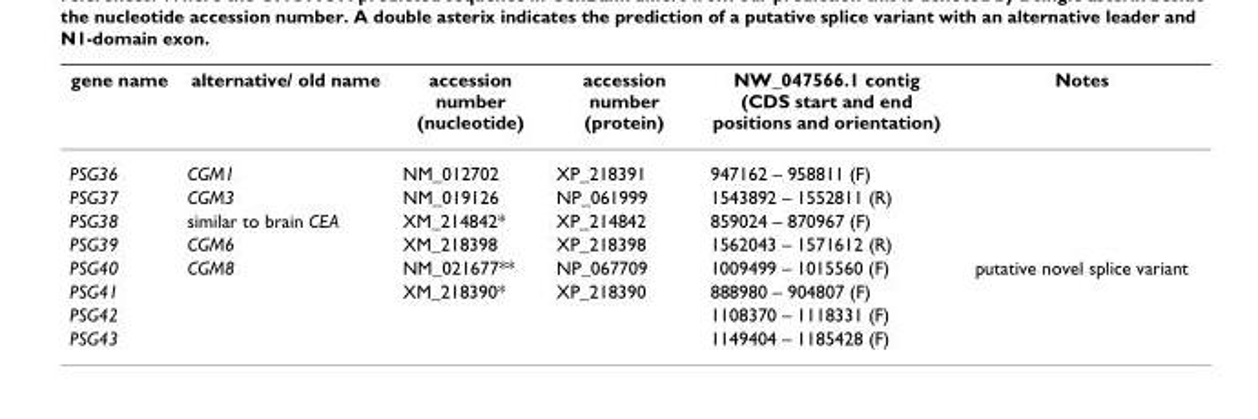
<table><thead><tr><td>gene name</td><td>alternative/ old name</td><td>accession number (nucleotide)</td><td>accession number (protein)</td><td>NW_047566.1 contig (CDS start and end positions and orientation)</td><td>Notes</td></tr></thead><tbody><tr><td>PSG36</td><td>CGM1</td><td>NM_012702</td><td>XP_218391</td><td>947162 – 958811 (F)</td><td></td></tr><tr><td>PSG37</td><td>CGM3</td><td>NM_019126</td><td>NP_061999</td><td>1543892 – 1552811 (R)</td><td></td></tr><tr><td>PSG38</td><td>similar to brain CEA</td><td>XM_214842*</td><td>XP_214842</td><td>859024 – 870967 (F)</td><td></td></tr><tr><td>PSG39</td><td>CGM6</td><td>XM_218398</td><td>XP_218398</td><td>1562043 – 1571612 (R)</td><td></td></tr><tr><td>PSG40</td><td>CGM8</td><td>NM_021677**</td><td>NP_067709</td><td>1009499 – 1015560 (F)</td><td>putative novel splice variant</td></tr><tr><td>PSG41</td><td></td><td>XM_218390*</td><td>XP_218390</td><td>888980 – 904807 (F)</td><td></td></tr><tr><td>PSG42</td><td></td><td></td><td></td><td>1108370 – 1118331 (F)</td><td></td></tr><tr><td>PSG43</td><td></td><td></td><td></td><td>1149404 – 1185428 (F)</td><td></td></tr></tbody></table>